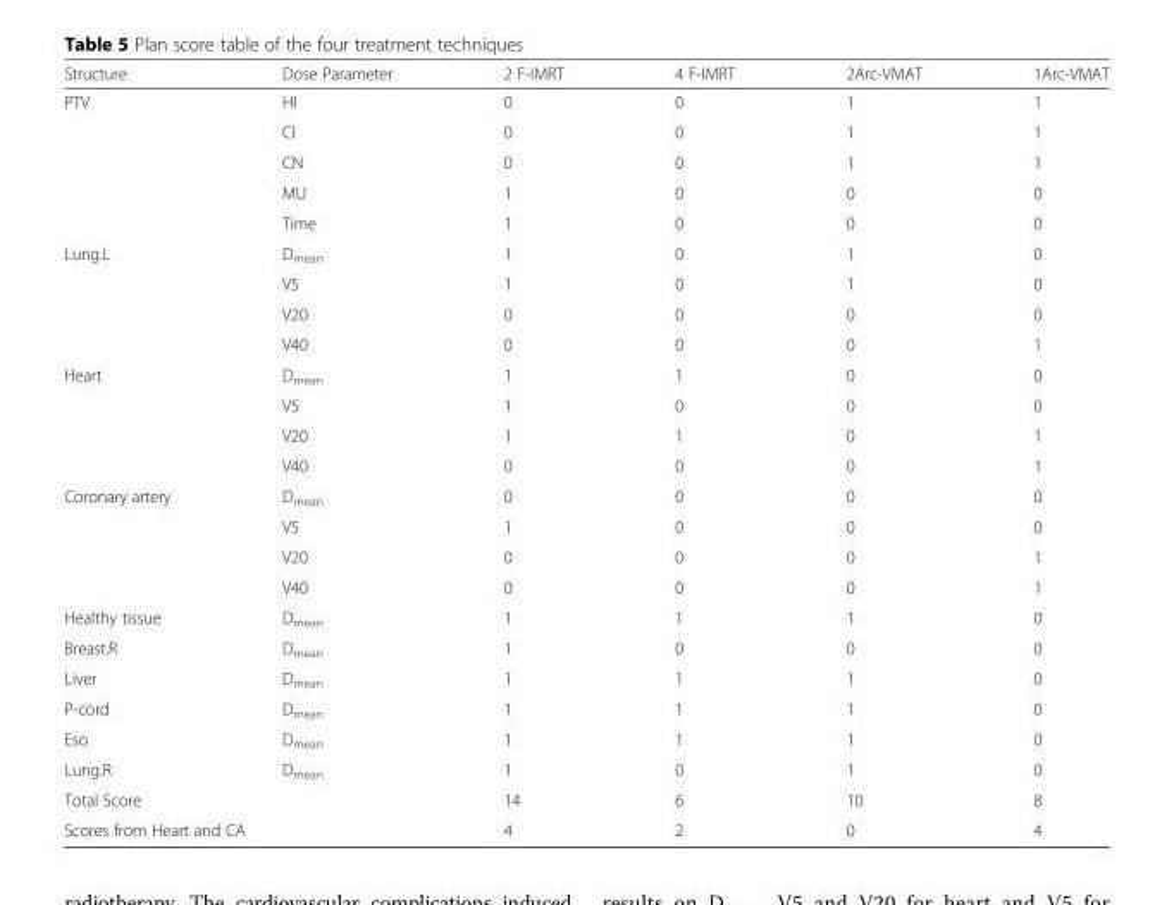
<table><thead><tr><td>Structure</td><td>Dose Parameter</td><td>2 F-IMRT</td><td>4 F-IMRT</td><td>2Arc-VMAT</td><td>1Arc-VMAT</td></tr></thead><tbody><tr><td rowspan="5">PTV</td><td>HI</td><td>0</td><td>0</td><td>1</td><td>1</td></tr><tr><td>CI</td><td>0</td><td>0</td><td>1</td><td>1</td></tr><tr><td>CN</td><td>0</td><td>0</td><td>1</td><td>1</td></tr><tr><td>MU</td><td>1</td><td>0</td><td>0</td><td>0</td></tr><tr><td>Time</td><td>1</td><td>0</td><td>0</td><td>0</td></tr><tr><td rowspan="4">Lung.L</td><td>D<sub>mean</sub></td><td>1</td><td>0</td><td>1</td><td>0</td></tr><tr><td>V5</td><td>1</td><td>0</td><td>1</td><td>0</td></tr><tr><td>V20</td><td>0</td><td>0</td><td>0</td><td>0</td></tr><tr><td>V40</td><td>0</td><td>0</td><td>0</td><td>1</td></tr><tr><td rowspan="4">Heart</td><td>D<sub>mean</sub></td><td>1</td><td>1</td><td>0</td><td>0</td></tr><tr><td>V5</td><td>1</td><td>0</td><td>0</td><td>0</td></tr><tr><td>V20</td><td>1</td><td>1</td><td>0</td><td>1</td></tr><tr><td>V40</td><td>0</td><td>0</td><td>0</td><td>1</td></tr><tr><td rowspan="4">Coronary artery</td><td>D<sub>mean</sub></td><td>0</td><td>0</td><td>0</td><td>0</td></tr><tr><td>V5</td><td>1</td><td>0</td><td>0</td><td>0</td></tr><tr><td>V20</td><td>0</td><td>0</td><td>0</td><td>1</td></tr><tr><td>V40</td><td>0</td><td>0</td><td>0</td><td>1</td></tr><tr><td>Healthy tissue</td><td>D<sub>mean</sub></td><td>1</td><td>1</td><td>1</td><td>0</td></tr><tr><td>Breast.R</td><td>D<sub>mean</sub></td><td>1</td><td>0</td><td>0</td><td>0</td></tr><tr><td>Liver</td><td>D<sub>mean</sub></td><td>1</td><td>1</td><td>1</td><td>0</td></tr><tr><td>P-cord</td><td>D<sub>mean</sub></td><td>1</td><td>1</td><td>1</td><td>0</td></tr><tr><td>Eso</td><td>D<sub>mean</sub></td><td>1</td><td>1</td><td>1</td><td>0</td></tr><tr><td>Lung.R</td><td>D<sub>mean</sub></td><td>1</td><td>0</td><td>1</td><td>0</td></tr><tr><td colspan="2">Total Score</td><td>14</td><td>6</td><td>10</td><td>8</td></tr><tr><td colspan="2">Scores from Heart and CA</td><td>4</td><td>2</td><td>0</td><td>4</td></tr></tbody></table>